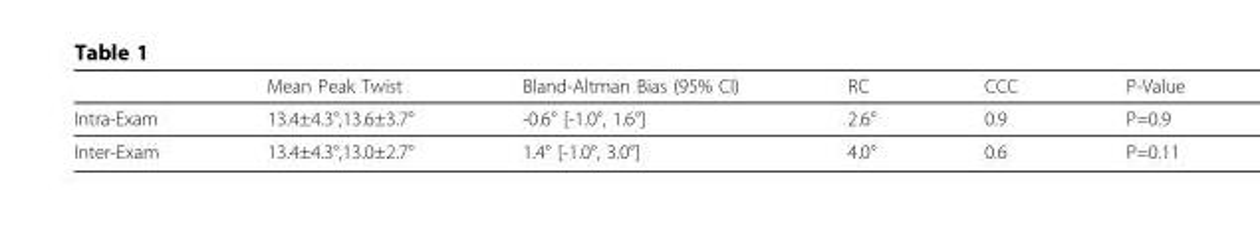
<table><thead><tr><td></td><td>Mean Peak Twist</td><td>Bland-Altman Bias (95% CI)</td><td>RC</td><td>CCC</td><td>P-Value</td></tr></thead><tbody><tr><td>Intra-Exam</td><td>13.4±4.3°,13.6±3.7°</td><td>-0.6° [-1.0°, 1.6°]</td><td>2.6°</td><td>0.9</td><td>P=0.9</td></tr><tr><td>Inter-Exam</td><td>13.4±4.3°,13.0±2.7°</td><td>1.4° [-1.0°, 3.0°]</td><td>4.0°</td><td>0.6</td><td>P=0.11</td></tr></tbody></table>